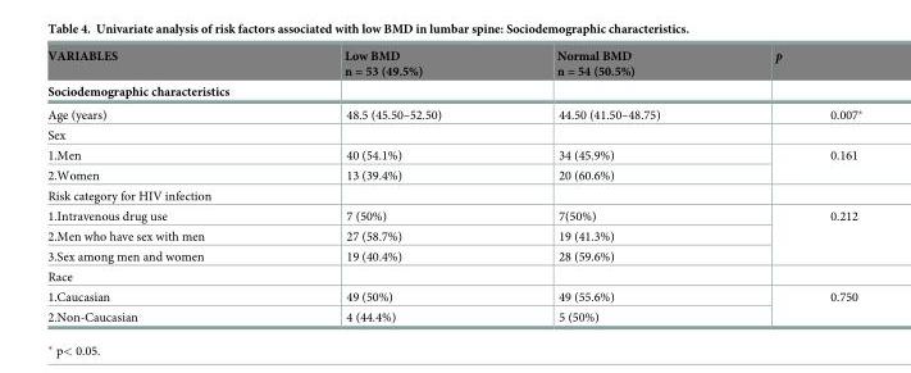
<table><thead><tr><td rowspan="2">VARIABLES Sociodemographic characteristics</td><td rowspan="2">Low BMD n = 53 (49.5%)</td><td rowspan="2">Normal BMD n = 54 (50.5%)</td><td rowspan="2">p</td></tr><tr></tr></thead><tbody><tr><td>Age (years)</td><td>48.5 (45.50–52.50)</td><td>44.50 (41.50–48.75)</td><td>0.007*</td></tr><tr><td colspan="4">Sex</td></tr><tr><td>1.Men</td><td>40 (54.1%)</td><td>34 (45.9%)</td><td rowspan="2">0.161</td></tr><tr><td>2.Women</td><td>13 (39.4%)</td><td>20 (60.6%)</td></tr><tr><td colspan="4">Risk category for HIV infection</td></tr><tr><td>1.Intravenous drug use</td><td>7 (50%)</td><td>7(50%)</td><td rowspan="3">0.212</td></tr><tr><td>2.Men who have sex with men</td><td>27 (58.7%)</td><td>19 (41.3%)</td></tr><tr><td>3.Sex among men and women</td><td>19 (40.4%)</td><td>28 (59.6%)</td></tr><tr><td colspan="4">Race</td></tr><tr><td>1.Caucasian</td><td>49 (50%)</td><td>49 (55.6%)</td><td rowspan="2">0.750</td></tr><tr><td>2.Non-Caucasian</td><td>4 (44.4%)</td><td>5 (50%)</td></tr></tbody></table>